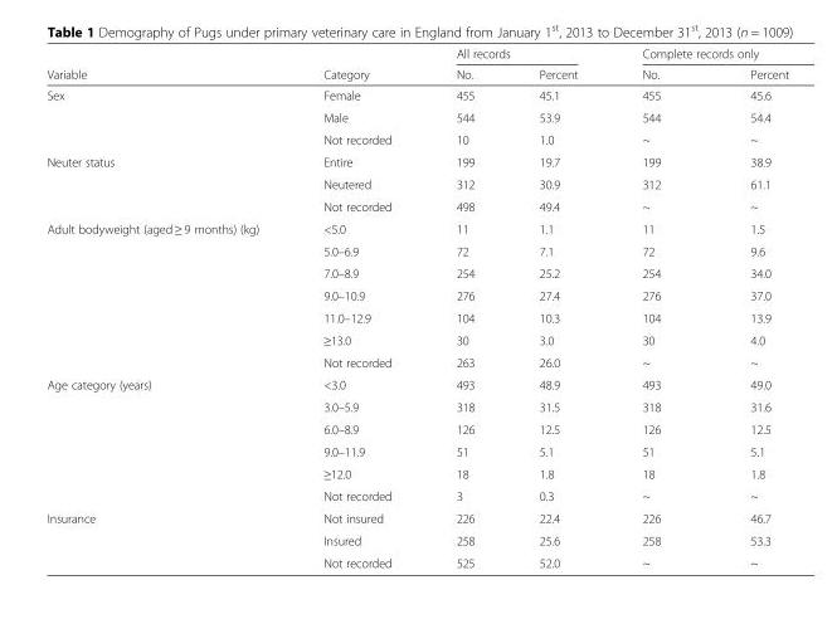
<table><thead><tr><td rowspan="2">Variable</td><td rowspan="2">Category</td><td colspan="2">All records</td><td colspan="2">Complete records only</td></tr><tr><td>No.</td><td>Percent</td><td>No.</td><td>Percent</td></tr></thead><tbody><tr><td rowspan="3">Sex</td><td>Female</td><td>455</td><td>45.1</td><td>455</td><td>45.6</td></tr><tr><td>Male</td><td>544</td><td>53.9</td><td>544</td><td>54.4</td></tr><tr><td>Not recorded</td><td>10</td><td>1.0</td><td>~</td><td>~</td></tr><tr><td rowspan="3">Neuter status</td><td>Entire</td><td>199</td><td>19.7</td><td>199</td><td>38.9</td></tr><tr><td>Neutered</td><td>312</td><td>30.9</td><td>312</td><td>61.1</td></tr><tr><td>Not recorded</td><td>498</td><td>49.4</td><td>~</td><td>~</td></tr><tr><td rowspan="7">Adult bodyweight (aged ≥ 9 months) (kg)</td><td>&lt;5.0</td><td>11</td><td>1.1</td><td>11</td><td>1.5</td></tr><tr><td>5.0–6.9</td><td>72</td><td>7.1</td><td>72</td><td>9.6</td></tr><tr><td>7.0–8.9</td><td>254</td><td>25.2</td><td>254</td><td>34.0</td></tr><tr><td>9.0–10.9</td><td>276</td><td>27.4</td><td>276</td><td>37.0</td></tr><tr><td>11.0–12.9</td><td>104</td><td>10.3</td><td>104</td><td>13.9</td></tr><tr><td>≥13.0</td><td>30</td><td>3.0</td><td>30</td><td>4.0</td></tr><tr><td>Not recorded</td><td>263</td><td>26.0</td><td>~</td><td>~</td></tr><tr><td rowspan="6">Age category (years)</td><td>&lt;3.0</td><td>493</td><td>48.9</td><td>493</td><td>49.0</td></tr><tr><td>3.0–5.9</td><td>318</td><td>31.5</td><td>318</td><td>31.6</td></tr><tr><td>6.0–8.9</td><td>126</td><td>12.5</td><td>126</td><td>12.5</td></tr><tr><td>9.0–11.9</td><td>51</td><td>5.1</td><td>51</td><td>5.1</td></tr><tr><td>≥12.0</td><td>18</td><td>1.8</td><td>18</td><td>1.8</td></tr><tr><td>Not recorded</td><td>3</td><td>0.3</td><td>~</td><td>~</td></tr><tr><td rowspan="3">Insurance</td><td>Not insured</td><td>226</td><td>22.4</td><td>226</td><td>46.7</td></tr><tr><td>Insured</td><td>258</td><td>25.6</td><td>258</td><td>53.3</td></tr><tr><td>Not recorded</td><td>525</td><td>52.0</td><td>~</td><td>~</td></tr></tbody></table>